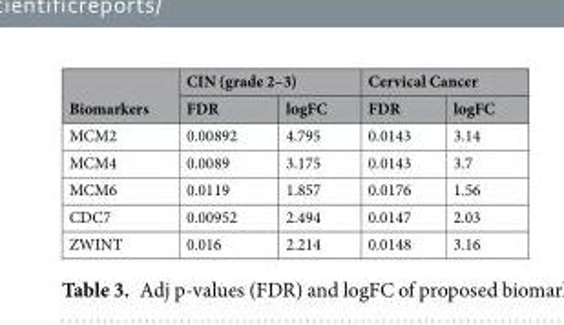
<table><thead><tr><td rowspan="2">Biomarkers</td><td colspan="2">CIN (grade 2–3)</td><td colspan="2">Cervical Cancer</td></tr><tr><td>FDR</td><td>logFC</td><td>FDR</td><td>logFC</td></tr></thead><tbody><tr><td>MCM2</td><td>0.00892</td><td>4.795</td><td>0.0143</td><td>3.14</td></tr><tr><td>MCM4</td><td>0.0089</td><td>3.175</td><td>0.0143</td><td>3.7</td></tr><tr><td>MCM6</td><td>0.0119</td><td>1.857</td><td>0.0176</td><td>1.56</td></tr><tr><td>CDC7</td><td>0.00952</td><td>2.494</td><td>0.0147</td><td>2.03</td></tr><tr><td>ZWINT</td><td>0.016</td><td>2.214</td><td>0.0148</td><td>3.16</td></tr></tbody></table>